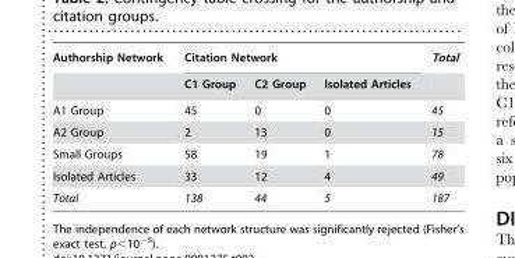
<table><thead><tr><td rowspan="2">Authorship Network</td><td colspan="3">Citation Network</td><td rowspan="2">Total</td></tr><tr><td>C1 Group</td><td>C2 Group</td><td>Isolated Articles</td></tr></thead><tbody><tr><td>A1 Group</td><td>45</td><td>0</td><td>0</td><td>45</td></tr><tr><td>A2 Group</td><td>2</td><td>13</td><td>0</td><td>15</td></tr><tr><td>Small Groups</td><td>58</td><td>19</td><td>1</td><td>78</td></tr><tr><td>Isolated Articles</td><td>33</td><td>12</td><td>4</td><td>49</td></tr><tr><td>Total</td><td>138</td><td>44</td><td>5</td><td>187</td></tr></tbody></table>